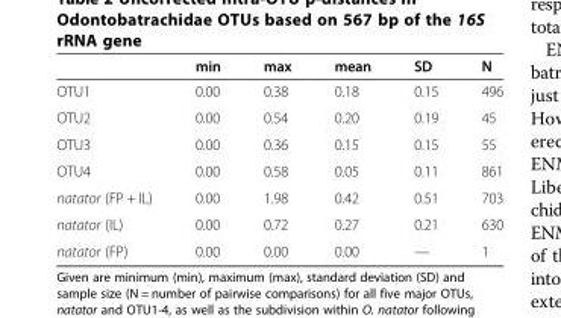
<table><thead><tr><td></td><td>min</td><td>max</td><td>mean</td><td>SD</td><td>N</td></tr></thead><tbody><tr><td>OTU1</td><td>0.00</td><td>0.38</td><td>0.18</td><td>0.15</td><td>496</td></tr><tr><td>OTU2</td><td>0.00</td><td>0.54</td><td>0.20</td><td>0.19</td><td>45</td></tr><tr><td>OTU3</td><td>0.00</td><td>0.36</td><td>0.15</td><td>0.15</td><td>55</td></tr><tr><td>OTU4</td><td>0.00</td><td>0.58</td><td>0.05</td><td>0.11</td><td>861</td></tr><tr><td>natator (FP + IL)</td><td>0.00</td><td>1.98</td><td>0.42</td><td>0.51</td><td>703</td></tr><tr><td>natator (IL)</td><td>0.00</td><td>0.72</td><td>0.27</td><td>0.21</td><td>630</td></tr><tr><td>natator (FP)</td><td>0.00</td><td>0.00</td><td>0.00</td><td>—</td><td>1</td></tr></tbody></table>